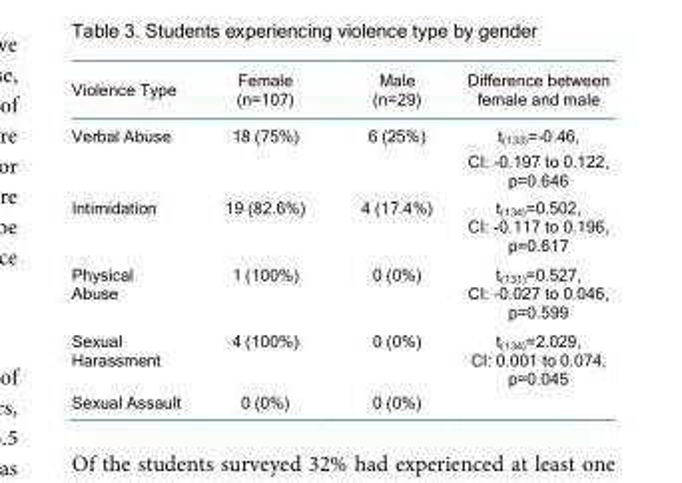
<table><thead><tr><td>Violence Type</td><td>Female (n=107)</td><td>Male (n=29)</td><td>Difference between female and male</td></tr></thead><tbody><tr><td>Verbal Abuse</td><td>18 (75%)</td><td>6 (25%)</td><td>t<sub>(133)</sub>=-0.46, CI: -0.197 to 0.122, p=0.646</td></tr><tr><td>Intimidation</td><td>19 (82.6%)</td><td>4 (17.4%)</td><td>t<sub>(134)</sub>=0.502, CI: -0.117 to 0.196, p=0.617</td></tr><tr><td>Physical Abuse</td><td>1 (100%)</td><td>0 (0%)</td><td>t<sub>(131)</sub>=0.527, CI: -0.027 to 0.046, p=0.599</td></tr><tr><td>Sexual Harassment</td><td>4 (100%)</td><td>0 (0%)</td><td>t<sub>(134)</sub>=2.029, CI: 0.001 to 0.074, p=0.045</td></tr><tr><td>Sexual Assault</td><td>0 (0%)</td><td>0 (0%)</td><td></td></tr></tbody></table>